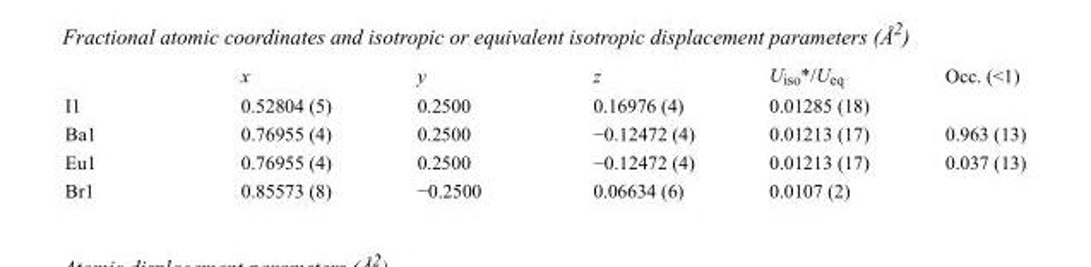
<table><thead><tr><td></td><td>x</td><td>y</td><td>z</td><td>U<sub>iso</sub>*/U<sub>eq</sub></td><td>Occ. (&lt;1)</td></tr></thead><tbody><tr><td>I1</td><td>0.52804 (5)</td><td>0.2500</td><td>0.16976 (4)</td><td>0.01285 (18)</td><td></td></tr><tr><td>Ba1</td><td>0.76955 (4)</td><td>0.2500</td><td>−0.12472 (4)</td><td>0.01213 (17)</td><td>0.963 (13)</td></tr><tr><td>Eu1</td><td>0.76955 (4)</td><td>0.2500</td><td>−0.12472 (4)</td><td>0.01213 (17)</td><td>0.037 (13)</td></tr><tr><td>Br1</td><td>0.85573 (8)</td><td>−0.2500</td><td>0.06634 (6)</td><td>0.0107 (2)</td><td></td></tr></tbody></table>